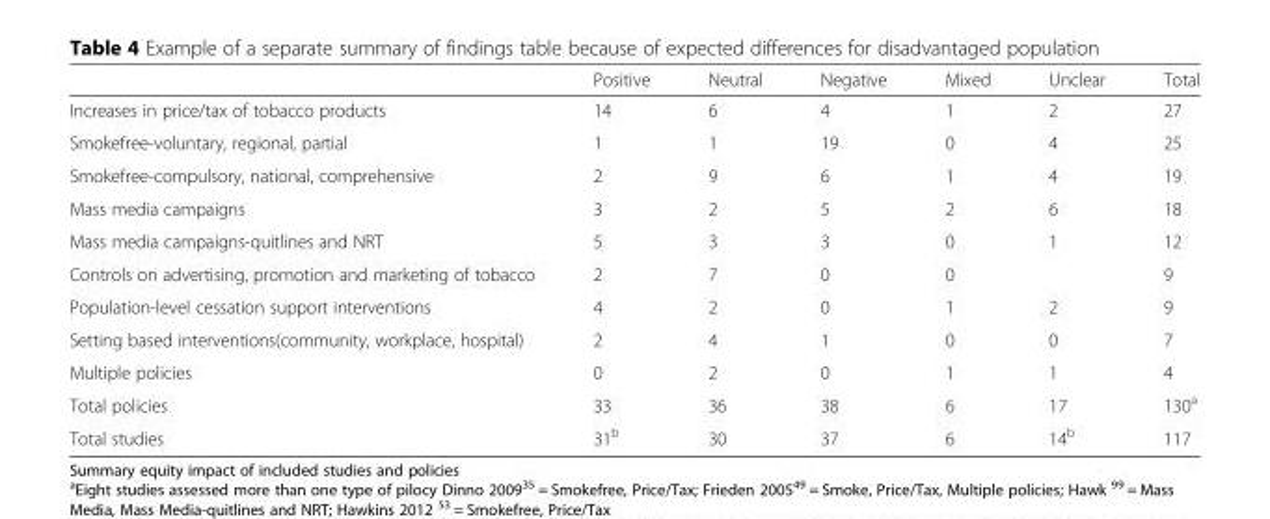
<table><thead><tr><td></td><td>Positive</td><td>Neutral</td><td>Negative</td><td>Mixed</td><td>Unclear</td><td>Total</td></tr></thead><tbody><tr><td>Increases in price/tax of tobacco products</td><td>14</td><td>6</td><td>4</td><td>1</td><td>2</td><td>27</td></tr><tr><td>Smokefree-voluntary, regional, partial</td><td>1</td><td>1</td><td>19</td><td>0</td><td>4</td><td>25</td></tr><tr><td>Smokefree-compulsory, national, comprehensive</td><td>2</td><td>9</td><td>6</td><td>1</td><td>4</td><td>19</td></tr><tr><td>Mass media campaigns</td><td>3</td><td>2</td><td>5</td><td>2</td><td>6</td><td>18</td></tr><tr><td>Mass media campaigns-quitlines and NRT</td><td>5</td><td>3</td><td>3</td><td>0</td><td>1</td><td>12</td></tr><tr><td>Controls on advertising, promotion and marketing of tobacco</td><td>2</td><td>7</td><td>0</td><td>0</td><td></td><td>9</td></tr><tr><td>Population-level cessation support interventions</td><td>4</td><td>2</td><td>0</td><td>1</td><td>2</td><td>9</td></tr><tr><td>Setting based interventions(community, workplace, hospital)</td><td>2</td><td>4</td><td>1</td><td>0</td><td>0</td><td>7</td></tr><tr><td>Multiple policies</td><td>0</td><td>2</td><td>0</td><td>1</td><td>1</td><td>4</td></tr><tr><td>Total policies</td><td>33</td><td>36</td><td>38</td><td>6</td><td>17</td><td>130<sup>a</sup></td></tr><tr><td>Total studies</td><td>31<sup>b</sup></td><td>30</td><td>37</td><td>6</td><td>14<sup>b</sup></td><td>117</td></tr></tbody></table>